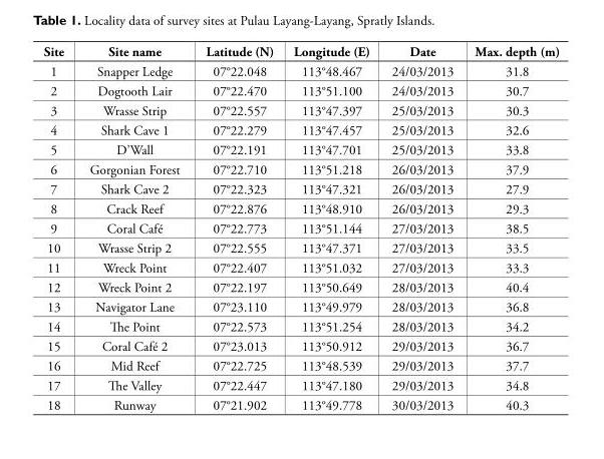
<table><thead><tr><td>Site</td><td>Site name</td><td>Latitude (N)</td><td>Longitude (E)</td><td>Date</td><td>Max. depth (m)</td></tr></thead><tbody><tr><td>1</td><td>Snapper Ledge</td><td>07°22.048</td><td>113°48.467</td><td>24/03/2013</td><td>31.8</td></tr><tr><td>2</td><td>Dogtooth Lair</td><td>07°22.470</td><td>113°51.100</td><td>24/03/2013</td><td>30.7</td></tr><tr><td>3</td><td>Wrasse Strip</td><td>07°22.557</td><td>113°47.397</td><td>25/03/2013</td><td>30.3</td></tr><tr><td>4</td><td>Shark Cave 1</td><td>07°22.279</td><td>113°47.457</td><td>25/03/2013</td><td>32.6</td></tr><tr><td>5</td><td>D’Wall</td><td>07°22.191</td><td>113°47.701</td><td>25/03/2013</td><td>33.8</td></tr><tr><td>6</td><td>Gorgonian Forest</td><td>07°22.710</td><td>113°51.218</td><td>26/03/2013</td><td>37.9</td></tr><tr><td>7</td><td>Shark Cave 2</td><td>07°22.323</td><td>113°47.321</td><td>26/03/2013</td><td>27.9</td></tr><tr><td>8</td><td>Crack Reef</td><td>07°22.876</td><td>113°48.910</td><td>26/03/2013</td><td>29.3</td></tr><tr><td>9</td><td>Coral Café</td><td>07°22.773</td><td>113°51.144</td><td>27/03/2013</td><td>38.5</td></tr><tr><td>10</td><td>Wrasse Strip 2</td><td>07°22.555</td><td>113°47.371</td><td>27/03/2013</td><td>33.5</td></tr><tr><td>11</td><td>Wreck Point</td><td>07°22.407</td><td>113°51.032</td><td>27/03/2013</td><td>33.3</td></tr><tr><td>12</td><td>Wreck Point 2</td><td>07°22.197</td><td>113°50.649</td><td>28/03/2013</td><td>40.4</td></tr><tr><td>13</td><td>Navigator Lane</td><td>07°23.110</td><td>113°49.979</td><td>28/03/2013</td><td>36.8</td></tr><tr><td>14</td><td>The Point</td><td>07°22.573</td><td>113°51.254</td><td>28/03/2013</td><td>34.2</td></tr><tr><td>15</td><td>Coral Café 2</td><td>07°23.013</td><td>113°50.912</td><td>29/03/2013</td><td>36.7</td></tr><tr><td>16</td><td>Mid Reef</td><td>07°22.725</td><td>113°48.539</td><td>29/03/2013</td><td>37.7</td></tr><tr><td>17</td><td>The Valley</td><td>07°22.447</td><td>113°47.180</td><td>29/03/2013</td><td>34.8</td></tr><tr><td>18</td><td>Runway</td><td>07°21.902</td><td>113°49.778</td><td>30/03/2013</td><td>40.3</td></tr></tbody></table>